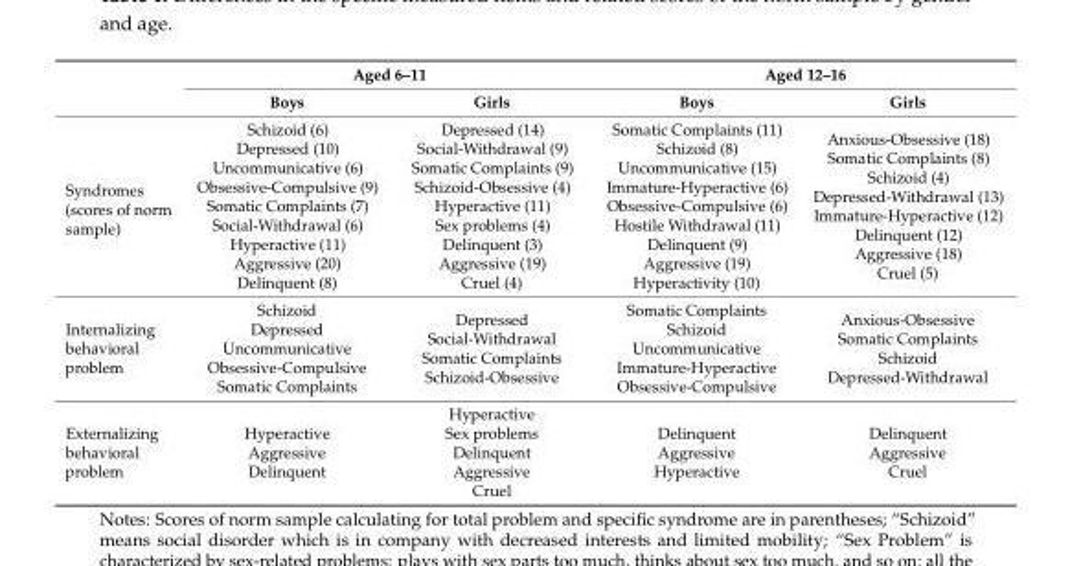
<table><thead><tr><td rowspan="2"></td><td colspan="2">Aged 6–11</td><td colspan="2">Aged 12–16</td></tr><tr><td>Boys</td><td>Girls</td><td>Boys</td><td>Girls</td></tr></thead><tbody><tr><td>Syndromes (scores of norm sample)</td><td>Schizoid (6) Depressed (10) Uncommunicative (6) Obsessive-Compulsive (9) Somatic Complaints (7) Social-Withdrawal (6) Hyperactive (11) Aggressive (20) Delinquent (8)</td><td>Depressed (14) Social-Withdrawal (9) Somatic Complaints (9) Schizoid-Obsessive (4) Hyperactive (11) Sex problems (4) Delinquent (3) Aggressive (19) Cruel (4)</td><td>Somatic Complaints (11) Schizoid (8) Uncommunicative (15) Immature-Hyperactive (6) Obsessive-Compulsive (6) Hostile Withdrawal (11) Delinquent (9) Aggressive (19) Hyperactivity (10)</td><td>Anxious-Obsessive (18) Somatic Complaints (8) Schizoid (4) Depressed-Withdrawal (13) Immature-Hyperactive (12) Delinquent (12) Aggressive (18) Cruel (5)</td></tr><tr><td>Internalizing behavioral problem</td><td>Schizoid Depressed Uncommunicative Obsessive-Compulsive Somatic Complaints</td><td>Depressed Social-Withdrawal Somatic Complaints Schizoid-Obsessive</td><td>Somatic Complaints Schizoid Uncommunicative Immature-Hyperactive Obsessive-Compulsive</td><td>Anxious-Obsessive Somatic Complaints Schizoid Depressed-Withdrawal</td></tr><tr><td>Externalizing behavioral problem</td><td>Hyperactive Aggressive Delinquent</td><td>Hyperactive Sex problems Delinquent Aggressive Cruel</td><td>Delinquent Aggressive Hyperactive</td><td>Delinquent Aggressive Cruel</td></tr></tbody></table>